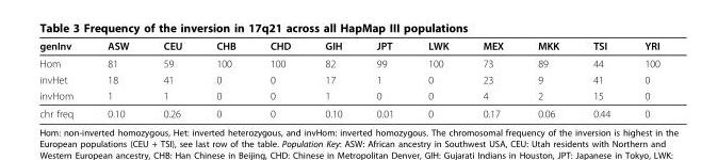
<table><thead><tr><td>genInv</td><td>ASW</td><td>CEU</td><td>CHB</td><td>CHD</td><td>GIH</td><td>JPT</td><td>LWK</td><td>MEX</td><td>MKK</td><td>TSI</td><td>YRI</td></tr></thead><tbody><tr><td>Hom</td><td>81</td><td>59</td><td>100</td><td>100</td><td>82</td><td>99</td><td>100</td><td>73</td><td>89</td><td>44</td><td>100</td></tr><tr><td>invHet</td><td>18</td><td>41</td><td>0</td><td>0</td><td>17</td><td>1</td><td>0</td><td>23</td><td>9</td><td>41</td><td>0</td></tr><tr><td>invHom</td><td>1</td><td>1</td><td>0</td><td>0</td><td>1</td><td>0</td><td>0</td><td>4</td><td>2</td><td>15</td><td>0</td></tr><tr><td>chr freq</td><td>0.10</td><td>0.26</td><td>0</td><td>0</td><td>0.10</td><td>0.01</td><td>0</td><td>0.17</td><td>0.06</td><td>0.44</td><td>0</td></tr></tbody></table>